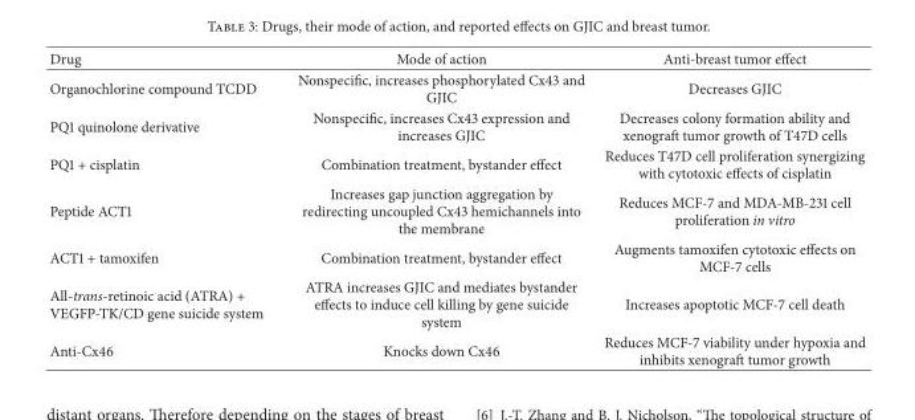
<table><thead><tr><td>Drug</td><td>Mode of action</td><td>Anti-breast tumor effect</td></tr></thead><tbody><tr><td>Organochlorine compound TCDD</td><td>Nonspecific, increases phosphorylated Cx43 and GJIC</td><td>Decreases GJIC</td></tr><tr><td>PQ1 quinolone derivative</td><td>Nonspecific, increases Cx43 expression and increases GJIC</td><td>Decreases colony formation ability and xenograft tumor growth of T47D cells</td></tr><tr><td>PQ1 + cisplatin</td><td>Combination treatment, bystander effect</td><td>Reduces T47D cell proliferation synergizing with cytotoxic effects of cisplatin</td></tr><tr><td>Peptide ACT1</td><td>Increases gap junction aggregation by redirecting uncoupled Cx43 hemichannels into the membrane</td><td>Reduces MCF-7 and MDA-MB-231 cell proliferation in vitro</td></tr><tr><td>ACT1 + tamoxifen</td><td>Combination treatment, bystander effect</td><td>Augments tamoxifen cytotoxic effects on MCF-7 cells</td></tr><tr><td>All-trans-retinoic acid (ATRA) + VEGFP-TK/CD gene suicide system</td><td>ATRA increases GJIC and mediates bystander effects to induce cell killing by gene suicide system</td><td>Increases apoptotic MCF-7 cell death</td></tr><tr><td>Anti-Cx46</td><td>Knocks down Cx46</td><td>Reduces MCF-7 viability under hypoxia and inhibits xenograft tumor growth</td></tr></tbody></table>